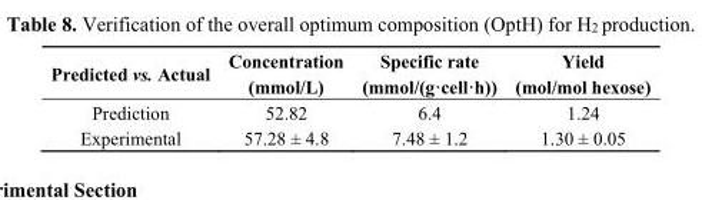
<table><thead><tr><td>Predicted vs. Actual</td><td>Concentration (mmol/L)</td><td>Specific rate (mmol/(g·cell·h))</td><td>Yield (mol/mol hexose)</td></tr></thead><tbody><tr><td>Prediction</td><td>52.82</td><td>6.4</td><td>1.24</td></tr><tr><td>Experimental</td><td>57.28 ± 4.8</td><td>7.48 ± 1.2</td><td>1.30 ± 0.05</td></tr></tbody></table>